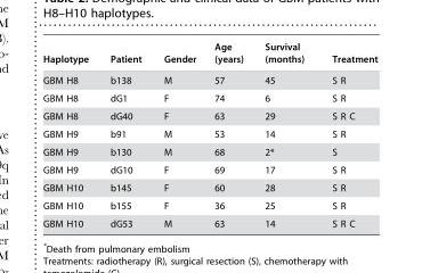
<table><thead><tr><td>Haplotype</td><td>Patient</td><td>Gender</td><td>Age (years)</td><td>Survival (months)</td><td>Treatment</td></tr></thead><tbody><tr><td>GBM H8</td><td>b138</td><td>M</td><td>57</td><td>45</td><td>S R</td></tr><tr><td>GBM H8</td><td>dG1</td><td>F</td><td>74</td><td>6</td><td>S R</td></tr><tr><td>GBM H8</td><td>dG40</td><td>F</td><td>63</td><td>29</td><td>S R C</td></tr><tr><td>GBM H9</td><td>b91</td><td>M</td><td>53</td><td>14</td><td>S R</td></tr><tr><td>GBM H9</td><td>b130</td><td>M</td><td>68</td><td>2*</td><td>S</td></tr><tr><td>GBM H9</td><td>dG10</td><td>F</td><td>69</td><td>17</td><td>S R</td></tr><tr><td>GBM H10</td><td>b145</td><td>F</td><td>60</td><td>28</td><td>S R</td></tr><tr><td>GBM H10</td><td>b155</td><td>F</td><td>36</td><td>25</td><td>S R</td></tr><tr><td>GBM H10</td><td>dG53</td><td>M</td><td>63</td><td>14</td><td>S R C</td></tr></tbody></table>